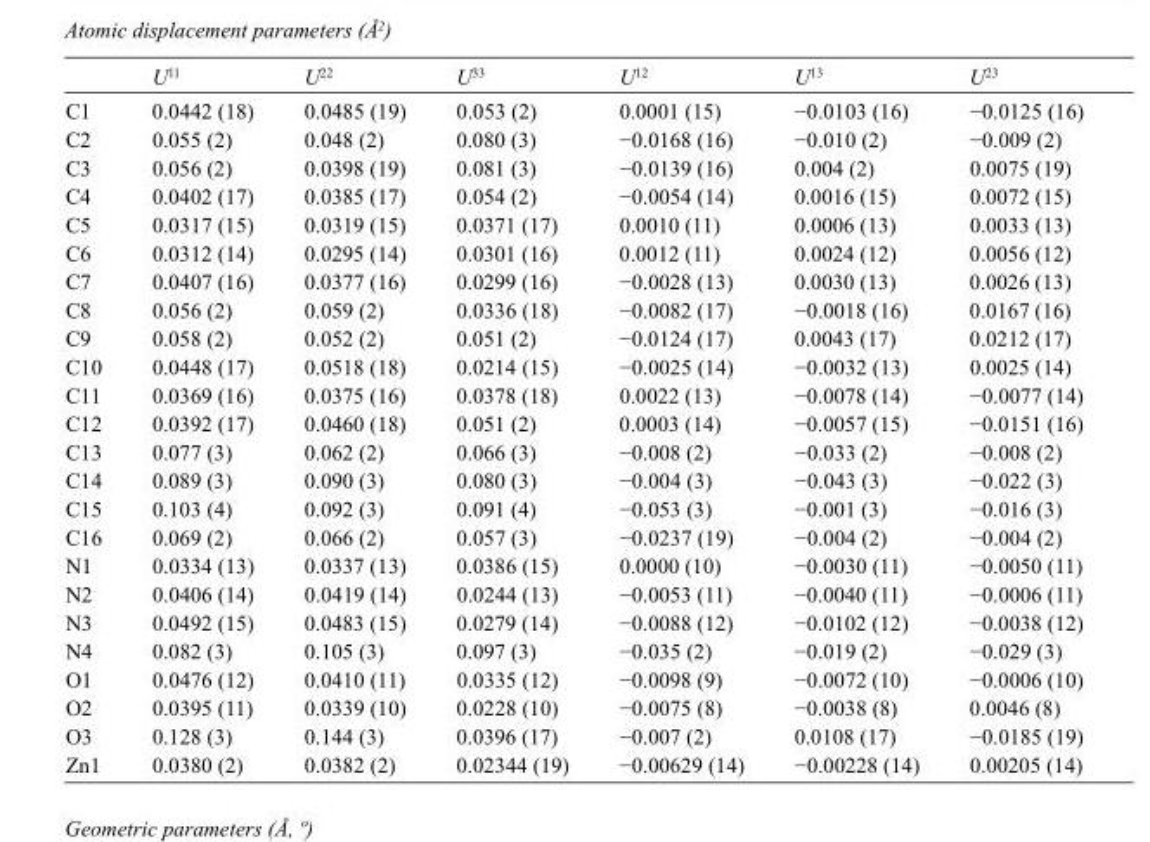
<table><thead><tr><td></td><td>U<sup>11</sup></td><td>U<sup>22</sup></td><td>U<sup>33</sup></td><td>U<sup>12</sup></td><td>U<sup>13</sup></td><td>U<sup>23</sup></td></tr></thead><tbody><tr><td>C1</td><td>0.0442 (18)</td><td>0.0485 (19)</td><td>0.053 (2)</td><td>0.0001 (15)</td><td>−0.0103 (16)</td><td>−0.0125 (16)</td></tr><tr><td>C2</td><td>0.055 (2)</td><td>0.048 (2)</td><td>0.080 (3)</td><td>−0.0168 (16)</td><td>−0.010 (2)</td><td>−0.009 (2)</td></tr><tr><td>C3</td><td>0.056 (2)</td><td>0.0398 (19)</td><td>0.081 (3)</td><td>−0.0139 (16)</td><td>0.004 (2)</td><td>0.0075 (19)</td></tr><tr><td>C4</td><td>0.0402 (17)</td><td>0.0385 (17)</td><td>0.054 (2)</td><td>−0.0054 (14)</td><td>0.0016 (15)</td><td>0.0072 (15)</td></tr><tr><td>C5</td><td>0.0317 (15)</td><td>0.0319 (15)</td><td>0.0371 (17)</td><td>0.0010 (11)</td><td>0.0006 (13)</td><td>0.0033 (13)</td></tr><tr><td>C6</td><td>0.0312 (14)</td><td>0.0295 (14)</td><td>0.0301 (16)</td><td>0.0012 (11)</td><td>0.0024 (12)</td><td>0.0056 (12)</td></tr><tr><td>C7</td><td>0.0407 (16)</td><td>0.0377 (16)</td><td>0.0299 (16)</td><td>−0.0028 (13)</td><td>0.0030 (13)</td><td>0.0026 (13)</td></tr><tr><td>C8</td><td>0.056 (2)</td><td>0.059 (2)</td><td>0.0336 (18)</td><td>−0.0082 (17)</td><td>−0.0018 (16)</td><td>0.0167 (16)</td></tr><tr><td>C9</td><td>0.058 (2)</td><td>0.052 (2)</td><td>0.051 (2)</td><td>−0.0124 (17)</td><td>0.0043 (17)</td><td>0.0212 (17)</td></tr><tr><td>C10</td><td>0.0448 (17)</td><td>0.0518 (18)</td><td>0.0214 (15)</td><td>−0.0025 (14)</td><td>−0.0032 (13)</td><td>0.0025 (14)</td></tr><tr><td>C11</td><td>0.0369 (16)</td><td>0.0375 (16)</td><td>0.0378 (18)</td><td>0.0022 (13)</td><td>−0.0078 (14)</td><td>−0.0077 (14)</td></tr><tr><td>C12</td><td>0.0392 (17)</td><td>0.0460 (18)</td><td>0.051 (2)</td><td>0.0003 (14)</td><td>−0.0057 (15)</td><td>−0.0151 (16)</td></tr><tr><td>C13</td><td>0.077 (3)</td><td>0.062 (2)</td><td>0.066 (3)</td><td>−0.008 (2)</td><td>−0.033 (2)</td><td>−0.008 (2)</td></tr><tr><td>C14</td><td>0.089 (3)</td><td>0.090 (3)</td><td>0.080 (3)</td><td>−0.004 (3)</td><td>−0.043 (3)</td><td>−0.022 (3)</td></tr><tr><td>C15</td><td>0.103 (4)</td><td>0.092 (3)</td><td>0.091 (4)</td><td>−0.053 (3)</td><td>−0.001 (3)</td><td>−0.016 (3)</td></tr><tr><td>C16</td><td>0.069 (2)</td><td>0.066 (2)</td><td>0.057 (3)</td><td>−0.0237 (19)</td><td>−0.004 (2)</td><td>−0.004 (2)</td></tr><tr><td>N1</td><td>0.0334 (13)</td><td>0.0337 (13)</td><td>0.0386 (15)</td><td>0.0000 (10)</td><td>−0.0030 (11)</td><td>−0.0050 (11)</td></tr><tr><td>N2</td><td>0.0406 (14)</td><td>0.0419 (14)</td><td>0.0244 (13)</td><td>−0.0053 (11)</td><td>−0.0040 (11)</td><td>−0.0006 (11)</td></tr><tr><td>N3</td><td>0.0492 (15)</td><td>0.0483 (15)</td><td>0.0279 (14)</td><td>−0.0088 (12)</td><td>−0.0102 (12)</td><td>−0.0038 (12)</td></tr><tr><td>N4</td><td>0.082 (3)</td><td>0.105 (3)</td><td>0.097 (3)</td><td>−0.035 (2)</td><td>−0.019 (2)</td><td>−0.029 (3)</td></tr><tr><td>O1</td><td>0.0476 (12)</td><td>0.0410 (11)</td><td>0.0335 (12)</td><td>−0.0098 (9)</td><td>−0.0072 (10)</td><td>−0.0006 (10)</td></tr><tr><td>O2</td><td>0.0395 (11)</td><td>0.0339 (10)</td><td>0.0228 (10)</td><td>−0.0075 (8)</td><td>−0.0038 (8)</td><td>0.0046 (8)</td></tr><tr><td>O3</td><td>0.128 (3)</td><td>0.144 (3)</td><td>0.0396 (17)</td><td>−0.007 (2)</td><td>0.0108 (17)</td><td>−0.0185 (19)</td></tr><tr><td>Zn1</td><td>0.0380 (2)</td><td>0.0382 (2)</td><td>0.02344 (19)</td><td>−0.00629 (14)</td><td>−0.00228 (14)</td><td>0.00205 (14)</td></tr></tbody></table>